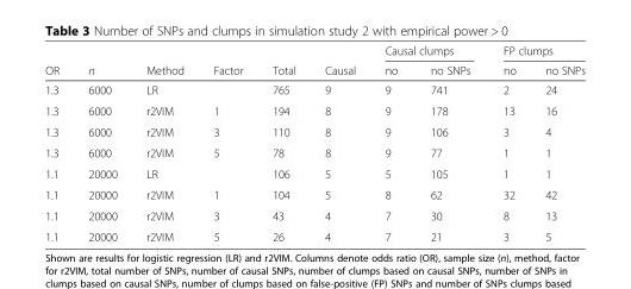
<table><thead><tr><td rowspan="2">OR</td><td rowspan="2">n</td><td rowspan="2">Method</td><td rowspan="2">Factor</td><td rowspan="2">Total</td><td rowspan="2">Causal</td><td colspan="2">Causal clumps</td><td colspan="2">FP clumps</td></tr><tr><td>no</td><td>no SNPs</td><td>no</td><td>no SNPs</td></tr></thead><tbody><tr><td>1.3</td><td>6000</td><td>LR</td><td></td><td>765</td><td>9</td><td>9</td><td>741</td><td>2</td><td>24</td></tr><tr><td>1.3</td><td>6000</td><td>r2VIM</td><td>1</td><td>194</td><td>8</td><td>9</td><td>178</td><td>13</td><td>16</td></tr><tr><td>1.3</td><td>6000</td><td>r2VIM</td><td>3</td><td>110</td><td>8</td><td>9</td><td>106</td><td>3</td><td>4</td></tr><tr><td>1.3</td><td>6000</td><td>r2VIM</td><td>5</td><td>78</td><td>8</td><td>9</td><td>77</td><td>1</td><td>1</td></tr><tr><td>1.1</td><td>20000</td><td>LR</td><td></td><td>106</td><td>5</td><td>5</td><td>105</td><td>1</td><td>1</td></tr><tr><td>1.1</td><td>20000</td><td>r2VIM</td><td>1</td><td>104</td><td>5</td><td>8</td><td>62</td><td>32</td><td>42</td></tr><tr><td>1.1</td><td>20000</td><td>r2VIM</td><td>3</td><td>43</td><td>4</td><td>7</td><td>30</td><td>8</td><td>13</td></tr><tr><td>1.1</td><td>20000</td><td>r2VIM</td><td>5</td><td>26</td><td>4</td><td>7</td><td>21</td><td>3</td><td>5</td></tr></tbody></table>